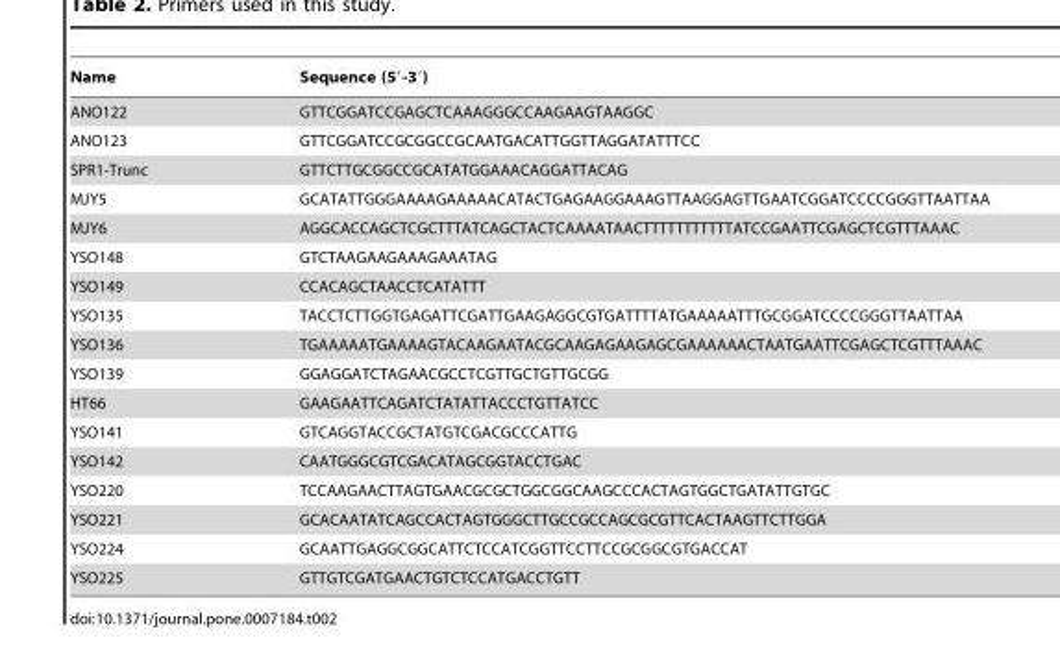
<table><thead><tr><td>Name</td><td>Sequence (5′-3′)</td></tr></thead><tbody><tr><td>ANO122</td><td>GTTCGGATCCGAGCTCAAAGGGCCAAGAAGTAAGGC</td></tr><tr><td>ANO123</td><td>GTTCGGATCCGCGGCCGCAATGACATTGGTTAGGATATTTCC</td></tr><tr><td>SPR1-Trunc</td><td>GTTCTTGCGGCCGCATATGGAAACAGGATTACAG</td></tr><tr><td>MJY5</td><td>GCATATTGGGAAAAGAAAAACATACTGAGAAGGAAAGTTAAGGAGTTGAATCGGATCCCCGGGTTAATTAA</td></tr><tr><td>MJY6</td><td>AGGCACCAGCTCGCTTTATCAGCTACTCAAAATAACTTTTTTTTTTTATCCGAATTCGAGCTCGTTTAAAC</td></tr><tr><td>YSO148</td><td>GTCTAAGAAGAAAGAAATAG</td></tr><tr><td>YSO149</td><td>CCACAGCTAACCTCATATTT</td></tr><tr><td>YSO135</td><td>TACCTCTTGGTGAGATTCGATTGAAGAGGCGTGATTTTATGAAAAATTTGCGGATCCCCGGGTTAATTAA</td></tr><tr><td>YSO136</td><td>TGAAAAATGAAAAGTACAAGAATACGCAAGAGAAGAGCGAAAAAACTAATGAATTCGAGCTCGTTTAAAC</td></tr><tr><td>YSO139</td><td>GGAGGATCTAGAACGCCTCGTTGCTGTTGCGG</td></tr><tr><td>HT66</td><td>GAAGAATTCAGATCTATATTACCCTGTTATCC</td></tr><tr><td>YSO141</td><td>GTCAGGTACCGCTATGTCGACGCCCATTG</td></tr><tr><td>YSO142</td><td>CAATGGGCGTCGACATAGCGGTACCTGAC</td></tr><tr><td>YSO220</td><td>TCCAAGAACTTAGTGAACGCGCTGGCGGCAAGCCCACTAGTGGCTGATATTGTGC</td></tr><tr><td>YSO221</td><td>GCACAATATCAGCCACTAGTGGGCTTGCCGCCAGCGCGTTCACTAAGTTCTTGGA</td></tr><tr><td>YSO224</td><td>GCAATTGAGGCGGCATTCTCCATCGGTTCCTTCCGCGGCGTGACCAT</td></tr><tr><td>YSO225</td><td>GTTGTCGATGAACTGTCTCCATGACCTGTT</td></tr></tbody></table>